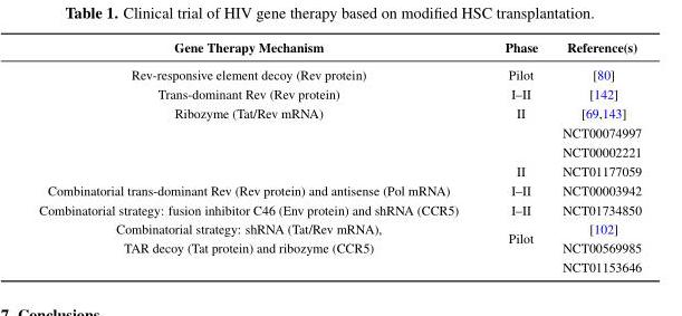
<table><thead><tr><td>Gene Therapy Mechanism</td><td>Phase</td><td>Reference(s)</td></tr></thead><tbody><tr><td>Rev-responsive element decoy (Rev protein)</td><td>Pilot</td><td>[80]</td></tr><tr><td>Trans-dominant Rev (Rev protein)</td><td>I–II</td><td>[142]</td></tr><tr><td rowspan="4">Ribozyme (Tat/Rev mRNA)</td><td>II</td><td>[69,143]</td></tr><tr><td></td><td>NCT00074997</td></tr><tr><td></td><td>NCT00002221</td></tr><tr><td>II</td><td>NCT01177059</td></tr><tr><td>Combinatorial trans-dominant Rev (Rev protein) and antisense (Pol mRNA)</td><td>I–II</td><td>NCT00003942</td></tr><tr><td>Combinatorial strategy: fusion inhibitor C46 (Env protein) and shRNA (CCR5)</td><td>I–II</td><td>NCT01734850</td></tr><tr><td rowspan="2">Combinatorial strategy: shRNA (Tat/Rev mRNA), TAR decoy (Tat protein) and ribozyme (CCR5)</td><td>Pilot</td><td>[102] NCT00569985</td></tr><tr><td></td><td>NCT01153646</td></tr></tbody></table>